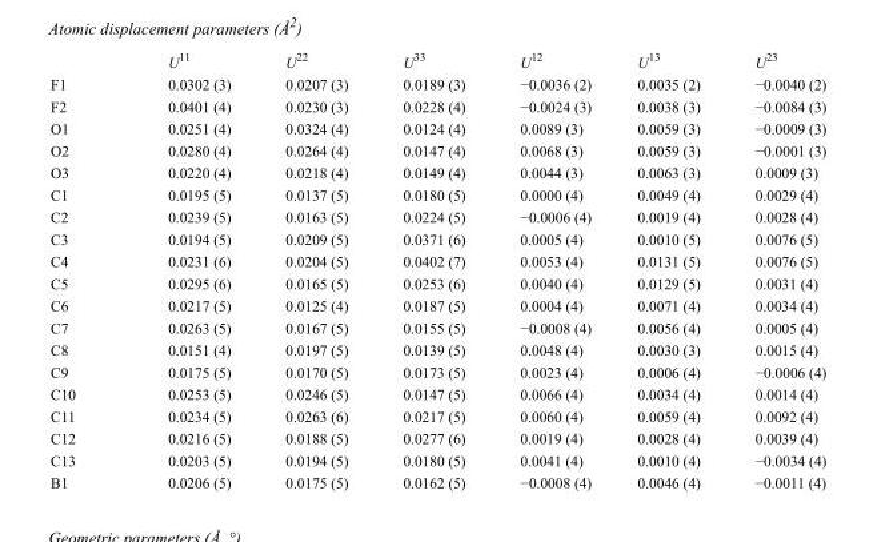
<table><thead><tr><td></td><td>U<sup>11</sup></td><td>U<sup>22</sup></td><td>U<sup>33</sup></td><td>U<sup>12</sup></td><td>U<sup>13</sup></td><td>U<sup>23</sup></td></tr></thead><tbody><tr><td>F1</td><td>0.0302 (3)</td><td>0.0207 (3)</td><td>0.0189 (3)</td><td>−0.0036 (2)</td><td>0.0035 (2)</td><td>−0.0040 (2)</td></tr><tr><td>F2</td><td>0.0401 (4)</td><td>0.0230 (3)</td><td>0.0228 (4)</td><td>−0.0024 (3)</td><td>0.0038 (3)</td><td>−0.0084 (3)</td></tr><tr><td>O1</td><td>0.0251 (4)</td><td>0.0324 (4)</td><td>0.0124 (4)</td><td>0.0089 (3)</td><td>0.0059 (3)</td><td>−0.0009 (3)</td></tr><tr><td>O2</td><td>0.0280 (4)</td><td>0.0264 (4)</td><td>0.0147 (4)</td><td>0.0068 (3)</td><td>0.0059 (3)</td><td>−0.0001 (3)</td></tr><tr><td>O3</td><td>0.0220 (4)</td><td>0.0218 (4)</td><td>0.0149 (4)</td><td>0.0044 (3)</td><td>0.0063 (3)</td><td>0.0009 (3)</td></tr><tr><td>C1</td><td>0.0195 (5)</td><td>0.0137 (5)</td><td>0.0180 (5)</td><td>0.0000 (4)</td><td>0.0049 (4)</td><td>0.0029 (4)</td></tr><tr><td>C2</td><td>0.0239 (5)</td><td>0.0163 (5)</td><td>0.0224 (5)</td><td>−0.0006 (4)</td><td>0.0019 (4)</td><td>0.0028 (4)</td></tr><tr><td>C3</td><td>0.0194 (5)</td><td>0.0209 (5)</td><td>0.0371 (6)</td><td>0.0005 (4)</td><td>0.0010 (5)</td><td>0.0076 (5)</td></tr><tr><td>C4</td><td>0.0231 (6)</td><td>0.0204 (5)</td><td>0.0402 (7)</td><td>0.0053 (4)</td><td>0.0131 (5)</td><td>0.0076 (5)</td></tr><tr><td>C5</td><td>0.0295 (6)</td><td>0.0165 (5)</td><td>0.0253 (6)</td><td>0.0040 (4)</td><td>0.0129 (5)</td><td>0.0031 (4)</td></tr><tr><td>C6</td><td>0.0217 (5)</td><td>0.0125 (4)</td><td>0.0187 (5)</td><td>0.0004 (4)</td><td>0.0071 (4)</td><td>0.0034 (4)</td></tr><tr><td>C7</td><td>0.0263 (5)</td><td>0.0167 (5)</td><td>0.0155 (5)</td><td>−0.0008 (4)</td><td>0.0056 (4)</td><td>0.0005 (4)</td></tr><tr><td>C8</td><td>0.0151 (4)</td><td>0.0197 (5)</td><td>0.0139 (5)</td><td>0.0048 (4)</td><td>0.0030 (3)</td><td>0.0015 (4)</td></tr><tr><td>C9</td><td>0.0175 (5)</td><td>0.0170 (5)</td><td>0.0173 (5)</td><td>0.0023 (4)</td><td>0.0006 (4)</td><td>−0.0006 (4)</td></tr><tr><td>C10</td><td>0.0253 (5)</td><td>0.0246 (5)</td><td>0.0147 (5)</td><td>0.0066 (4)</td><td>0.0034 (4)</td><td>0.0014 (4)</td></tr><tr><td>C11</td><td>0.0234 (5)</td><td>0.0263 (6)</td><td>0.0217 (5)</td><td>0.0060 (4)</td><td>0.0059 (4)</td><td>0.0092 (4)</td></tr><tr><td>C12</td><td>0.0216 (5)</td><td>0.0188 (5)</td><td>0.0277 (6)</td><td>0.0019 (4)</td><td>0.0028 (4)</td><td>0.0039 (4)</td></tr><tr><td>C13</td><td>0.0203 (5)</td><td>0.0194 (5)</td><td>0.0180 (5)</td><td>0.0041 (4)</td><td>0.0010 (4)</td><td>−0.0034 (4)</td></tr><tr><td>B1</td><td>0.0206 (5)</td><td>0.0175 (5)</td><td>0.0162 (5)</td><td>−0.0008 (4)</td><td>0.0046 (4)</td><td>−0.0011 (4)</td></tr></tbody></table>